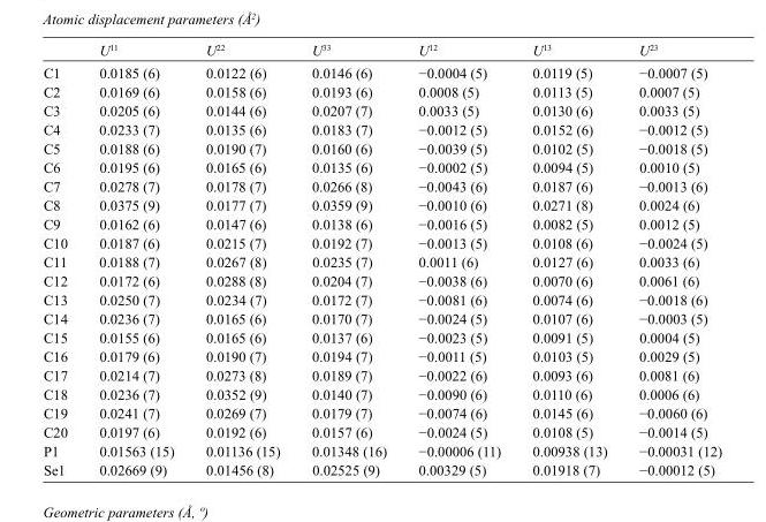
<table><thead><tr><td></td><td>U<sup>11</sup></td><td>U<sup>22</sup></td><td>U<sup>33</sup></td><td>U<sup>12</sup></td><td>U<sup>13</sup></td><td>U<sup>23</sup></td></tr></thead><tbody><tr><td>C1</td><td>0.0185 (6)</td><td>0.0122 (6)</td><td>0.0146 (6)</td><td>−0.0004 (5)</td><td>0.0119 (5)</td><td>−0.0007 (5)</td></tr><tr><td>C2</td><td>0.0169 (6)</td><td>0.0158 (6)</td><td>0.0193 (6)</td><td>0.0008 (5)</td><td>0.0113 (5)</td><td>0.0007 (5)</td></tr><tr><td>C3</td><td>0.0205 (6)</td><td>0.0144 (6)</td><td>0.0207 (7)</td><td>0.0033 (5)</td><td>0.0130 (6)</td><td>0.0033 (5)</td></tr><tr><td>C4</td><td>0.0233 (7)</td><td>0.0135 (6)</td><td>0.0183 (7)</td><td>−0.0012 (5)</td><td>0.0152 (6)</td><td>−0.0012 (5)</td></tr><tr><td>C5</td><td>0.0188 (6)</td><td>0.0190 (7)</td><td>0.0160 (6)</td><td>−0.0039 (5)</td><td>0.0102 (5)</td><td>−0.0018 (5)</td></tr><tr><td>C6</td><td>0.0195 (6)</td><td>0.0165 (6)</td><td>0.0135 (6)</td><td>−0.0002 (5)</td><td>0.0094 (5)</td><td>0.0010 (5)</td></tr><tr><td>C7</td><td>0.0278 (7)</td><td>0.0178 (7)</td><td>0.0266 (8)</td><td>−0.0043 (6)</td><td>0.0187 (6)</td><td>−0.0013 (6)</td></tr><tr><td>C8</td><td>0.0375 (9)</td><td>0.0177 (7)</td><td>0.0359 (9)</td><td>−0.0010 (6)</td><td>0.0271 (8)</td><td>0.0024 (6)</td></tr><tr><td>C9</td><td>0.0162 (6)</td><td>0.0147 (6)</td><td>0.0138 (6)</td><td>−0.0016 (5)</td><td>0.0082 (5)</td><td>0.0012 (5)</td></tr><tr><td>C10</td><td>0.0187 (6)</td><td>0.0215 (7)</td><td>0.0192 (7)</td><td>−0.0013 (5)</td><td>0.0108 (6)</td><td>−0.0024 (5)</td></tr><tr><td>C11</td><td>0.0188 (7)</td><td>0.0267 (8)</td><td>0.0235 (7)</td><td>0.0011 (6)</td><td>0.0127 (6)</td><td>0.0033 (6)</td></tr><tr><td>C12</td><td>0.0172 (6)</td><td>0.0288 (8)</td><td>0.0204 (7)</td><td>−0.0038 (6)</td><td>0.0070 (6)</td><td>0.0061 (6)</td></tr><tr><td>C13</td><td>0.0250 (7)</td><td>0.0234 (7)</td><td>0.0172 (7)</td><td>−0.0081 (6)</td><td>0.0074 (6)</td><td>−0.0018 (6)</td></tr><tr><td>C14</td><td>0.0236 (7)</td><td>0.0165 (6)</td><td>0.0170 (7)</td><td>−0.0024 (5)</td><td>0.0107 (6)</td><td>−0.0003 (5)</td></tr><tr><td>C15</td><td>0.0155 (6)</td><td>0.0165 (6)</td><td>0.0137 (6)</td><td>−0.0023 (5)</td><td>0.0091 (5)</td><td>0.0004 (5)</td></tr><tr><td>C16</td><td>0.0179 (6)</td><td>0.0190 (7)</td><td>0.0194 (7)</td><td>−0.0011 (5)</td><td>0.0103 (5)</td><td>0.0029 (5)</td></tr><tr><td>C17</td><td>0.0214 (7)</td><td>0.0273 (8)</td><td>0.0189 (7)</td><td>−0.0022 (6)</td><td>0.0093 (6)</td><td>0.0081 (6)</td></tr><tr><td>C18</td><td>0.0236 (7)</td><td>0.0352 (9)</td><td>0.0140 (7)</td><td>−0.0090 (6)</td><td>0.0110 (6)</td><td>0.0006 (6)</td></tr><tr><td>C19</td><td>0.0241 (7)</td><td>0.0269 (7)</td><td>0.0179 (7)</td><td>−0.0074 (6)</td><td>0.0145 (6)</td><td>−0.0060 (6)</td></tr><tr><td>C20</td><td>0.0197 (6)</td><td>0.0192 (6)</td><td>0.0157 (6)</td><td>−0.0024 (5)</td><td>0.0108 (5)</td><td>−0.0014 (5)</td></tr><tr><td>P1</td><td>0.01563 (15)</td><td>0.01136 (15)</td><td>0.01348 (16)</td><td>−0.00006 (11)</td><td>0.00938 (13)</td><td>−0.00031 (12)</td></tr><tr><td>Se1</td><td>0.02669 (9)</td><td>0.01456 (8)</td><td>0.02525 (9)</td><td>0.00329 (5)</td><td>0.01918 (7)</td><td>−0.00012 (5)</td></tr></tbody></table>